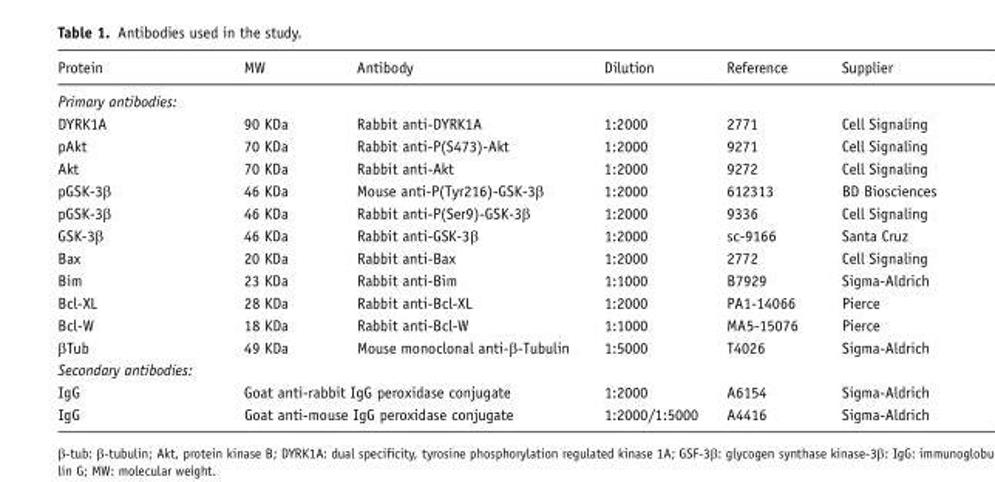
<table><thead><tr><td>Protein</td><td>MW</td><td>Antibody</td><td>Dilution</td><td>Reference</td><td>Supplier</td></tr></thead><tbody><tr><td colspan="6">Primary antibodies:</td></tr><tr><td>DYRK1A</td><td>90 KDa</td><td>Rabbit anti-DYRK1A</td><td>1:2000</td><td>2771</td><td>Cell Signaling</td></tr><tr><td>pAkt</td><td>70 KDa</td><td>Rabbit anti-P(S473)-Akt</td><td>1:2000</td><td>9271</td><td>Cell Signaling</td></tr><tr><td>Akt</td><td>70 KDa</td><td>Rabbit anti-Akt</td><td>1:2000</td><td>9272</td><td>Cell Signaling</td></tr><tr><td>pGSK-3β</td><td>46 KDa</td><td>Mouse anti-P(Tyr216)-GSK-3β</td><td>1:2000</td><td>612313</td><td>BD Biosciences</td></tr><tr><td>pGSK-3β</td><td>46 KDa</td><td>Rabbit anti-P(Ser9)-GSK-3β</td><td>1:2000</td><td>9336</td><td>Cell Signaling</td></tr><tr><td>GSK-3β</td><td>46 KDa</td><td>Rabbit anti-GSK-3β</td><td>1:2000</td><td>sc-9166</td><td>Santa Cruz</td></tr><tr><td>Bax</td><td>20 KDa</td><td>Rabbit anti-Bax</td><td>1:2000</td><td>2772</td><td>Cell Signaling</td></tr><tr><td>Bim</td><td>23 KDa</td><td>Rabbit anti-Bim</td><td>1:1000</td><td>B7929</td><td>Sigma-Aldrich</td></tr><tr><td>Bcl-XL</td><td>28 KDa</td><td>Rabbit anti-Bcl-XL</td><td>1:2000</td><td>PA1-14066</td><td>Pierce</td></tr><tr><td>Bcl-W</td><td>18 KDa</td><td>Rabbit anti-Bcl-W</td><td>1:1000</td><td>MA5-15076</td><td>Pierce</td></tr><tr><td>βTub</td><td>49 KDa</td><td>Mouse monoclonal anti-β-Tubulin</td><td>1:5000</td><td>T4026</td><td>Sigma-Aldrich</td></tr><tr><td colspan="6">Secondary antibodies:</td></tr><tr><td>IgG</td><td colspan="2">Goat anti-rabbit IgG peroxidase conjugate</td><td>1:2000</td><td>A6154</td><td>Sigma-Aldrich</td></tr><tr><td>IgG</td><td colspan="2">Goat anti-mouse IgG peroxidase conjugate</td><td>1:2000/1:5000</td><td>A4416</td><td>Sigma-Aldrich</td></tr></tbody></table>